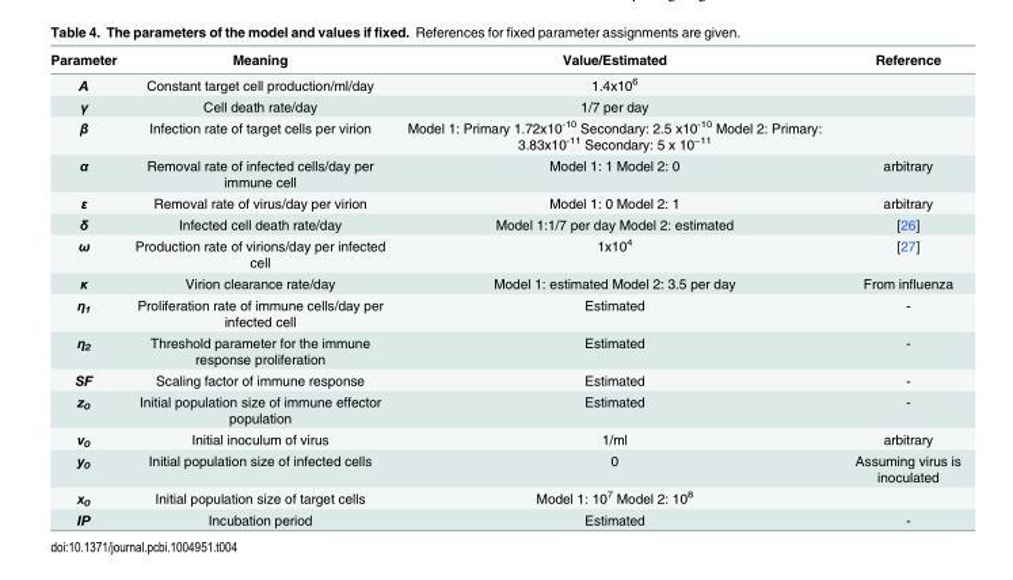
<table><thead><tr><td>Parameter</td><td>Meaning</td><td>Value/Estimated</td><td>Reference</td></tr></thead><tbody><tr><td>A</td><td>Constant target cell production/ml/day</td><td>1.4x10<sup>6</sup></td><td></td></tr><tr><td>γ</td><td>Cell death rate/day</td><td>1/7 per day</td><td></td></tr><tr><td>β</td><td>Infection rate of target cells per virion</td><td>Model 1: Primary 1.72x10<sup>-10</sup> Secondary: 2.5 x10<sup>-10</sup> Model 2: Primary: 3.83x10<sup>-11</sup> Secondary: 5 x 10<sup>−11</sup></td><td></td></tr><tr><td>α</td><td>Removal rate of infected cells/day per immune cell</td><td>Model 1: 1 Model 2: 0</td><td>arbitrary</td></tr><tr><td>ε</td><td>Removal rate of virus/day per virion</td><td>Model 1: 0 Model 2: 1</td><td>arbitrary</td></tr><tr><td>δ</td><td>Infected cell death rate/day</td><td>Model 1:1/7 per day Model 2: estimated</td><td>[26]</td></tr><tr><td>ω</td><td>Production rate of virions/day per infected cell</td><td>1x10<sup>4</sup></td><td>[27]</td></tr><tr><td>κ</td><td>Virion clearance rate/day</td><td>Model 1: estimated Model 2: 3.5 per day</td><td>From influenza</td></tr><tr><td>η<sub>1</sub></td><td>Proliferation rate of immune cells/day per infected cell</td><td>Estimated</td><td>-</td></tr><tr><td>η<sub>2</sub></td><td>Threshold parameter for the immune response proliferation</td><td>Estimated</td><td>-</td></tr><tr><td>SF</td><td>Scaling factor of immune response</td><td>Estimated</td><td>-</td></tr><tr><td>z<sub>0</sub></td><td>Initial population size of immune effector population</td><td>Estimated</td><td>-</td></tr><tr><td>v<sub>0</sub></td><td>Initial inoculum of virus</td><td>1/ml</td><td>arbitrary</td></tr><tr><td>y<sub>0</sub></td><td>Initial population size of infected cells</td><td>0</td><td>Assuming virus is inoculated</td></tr><tr><td>x<sub>0</sub></td><td>Initial population size of target cells</td><td>Model 1: 10<sup>7</sup> Model 2: 10<sup>8</sup></td><td></td></tr><tr><td>IP</td><td>Incubation period</td><td>Estimated</td><td>-</td></tr></tbody></table>